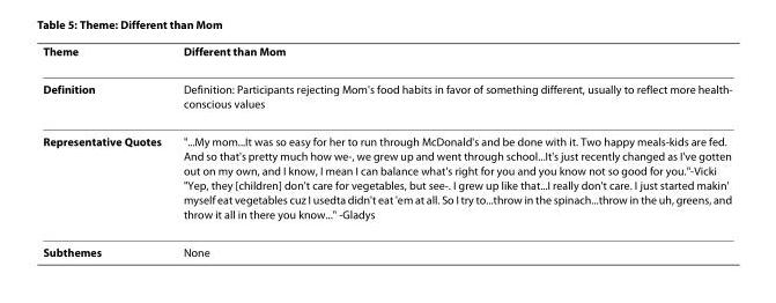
<table><thead><tr><td>Theme</td><td>Different than Mom</td></tr></thead><tbody><tr><td>Definition</td><td>Definition: Participants rejecting Mom&#x27;s food habits in favor of something different, usually to reflect more health- conscious values</td></tr><tr><td>Representative Quotes</td><td>&quot;...My mom...It was so easy for her to run through McDonald&#x27;s and be done with it. Two happy meals-kids are fed. And so that&#x27;s pretty much how we-, we grew up and went through school...It&#x27;s just recently changed as I&#x27;ve gotten out on my own, and I know, I mean I can balance what&#x27;s right for you and you know not so good for you.&quot;-Vicki &quot;Yep, they [children] don&#x27;t care for vegetables, but see-. I grew up like that...I really don&#x27;t care. I just started makin&#x27; myself eat vegetables cuz I usedta didn&#x27;t eat &#x27;em at all. So I try to...throw in the spinach...throw in the uh, greens, and throw it all in there you know...&quot; -Gladys</td></tr><tr><td>Subthemes</td><td>None</td></tr></tbody></table>